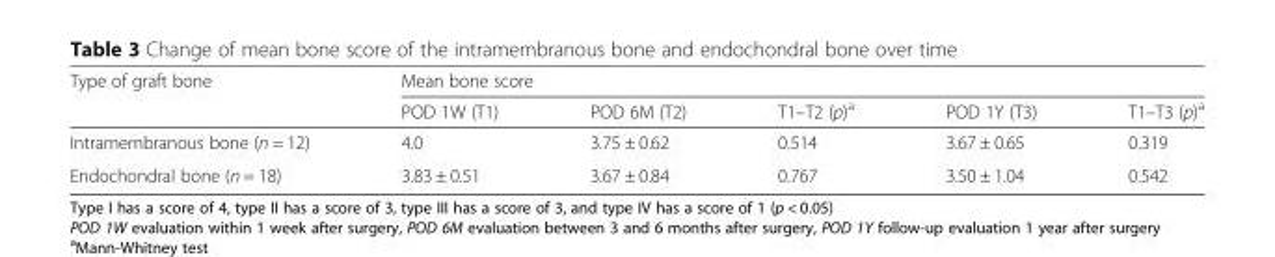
<table><thead><tr><td rowspan="2">Type of graft bone</td><td colspan="5">Mean bone score</td></tr><tr><td>POD 1W (T1)</td><td>POD 6M (T2)</td><td>T1–T2 (p)<sup>a</sup></td><td>POD 1Y (T3)</td><td>T1–T3 (p)<sup>a</sup></td></tr></thead><tbody><tr><td>Intramembranous bone (n = 12)</td><td>4.0</td><td>3.75 ± 0.62</td><td>0.514</td><td>3.67 ± 0.65</td><td>0.319</td></tr><tr><td>Endochondral bone (n = 18)</td><td>3.83 ± 0.51</td><td>3.67 ± 0.84</td><td>0.767</td><td>3.50 ± 1.04</td><td>0.542</td></tr></tbody></table>